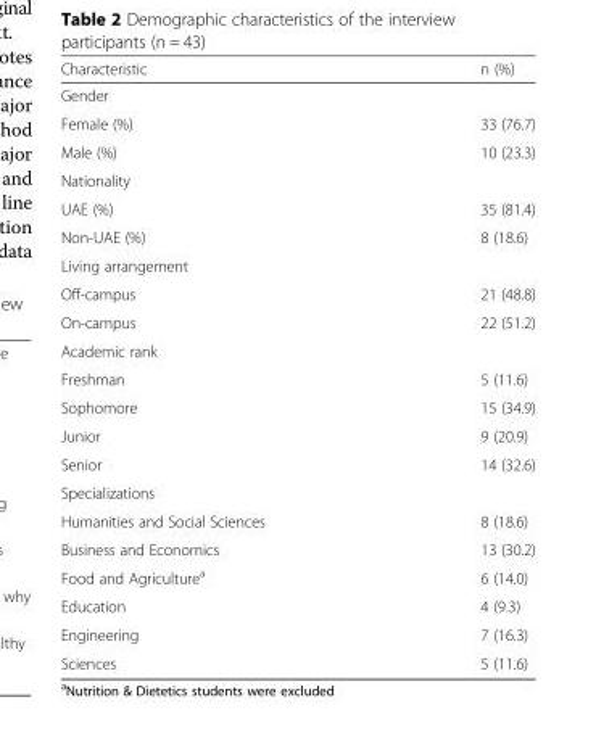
<table><thead><tr><td>Characteristic</td><td>n (%)</td></tr></thead><tbody><tr><td colspan="2">Gender</td></tr><tr><td>Female (%)</td><td>33 (76.7)</td></tr><tr><td>Male (%)</td><td>10 (23.3)</td></tr><tr><td colspan="2">Nationality</td></tr><tr><td>UAE (%)</td><td>35 (81.4)</td></tr><tr><td>Non-UAE (%)</td><td>8 (18.6)</td></tr><tr><td colspan="2">Living arrangement</td></tr><tr><td>Off-campus</td><td>21 (48.8)</td></tr><tr><td>On-campus</td><td>22 (51.2)</td></tr><tr><td colspan="2">Academic rank</td></tr><tr><td>Freshman</td><td>5 (11.6)</td></tr><tr><td>Sophomore</td><td>15 (34.9)</td></tr><tr><td>Junior</td><td>9 (20.9)</td></tr><tr><td>Senior</td><td>14 (32.6)</td></tr><tr><td colspan="2">Specializations</td></tr><tr><td>Humanities and Social Sciences</td><td>8 (18.6)</td></tr><tr><td>Business and Economics</td><td>13 (30.2)</td></tr><tr><td>Food and Agriculture<sup>a</sup></td><td>6 (14.0)</td></tr><tr><td>Education</td><td>4 (9.3)</td></tr><tr><td>Engineering</td><td>7 (16.3)</td></tr><tr><td>Sciences</td><td>5 (11.6)</td></tr></tbody></table>